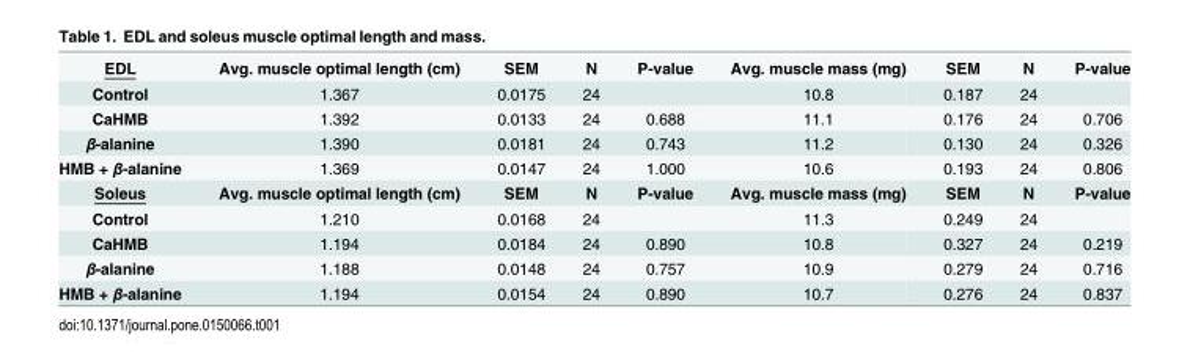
<table><tbody><tr><td>EDL</td><td>Avg. muscle optimal length (cm)</td><td>SEM</td><td>N</td><td>P-value</td><td>Avg. muscle mass (mg)</td><td>SEM</td><td>N</td><td>P-value</td></tr><tr><td>Control</td><td>1.367</td><td>0.0175</td><td>24</td><td></td><td>10.8</td><td>0.187</td><td>24</td><td></td></tr><tr><td>CaHMB</td><td>1.392</td><td>0.0133</td><td>24</td><td>0.688</td><td>11.1</td><td>0.176</td><td>24</td><td>0.706</td></tr><tr><td>β-alanine</td><td>1.390</td><td>0.0181</td><td>24</td><td>0.743</td><td>11.2</td><td>0.130</td><td>24</td><td>0.326</td></tr><tr><td>HMB + β-alanine</td><td>1.369</td><td>0.0147</td><td>24</td><td>1.000</td><td>10.6</td><td>0.193</td><td>24</td><td>0.806</td></tr><tr><td>Soleus</td><td>Avg. muscle optimal length (cm)</td><td>SEM</td><td>N</td><td>P-value</td><td>Avg. muscle mass (mg)</td><td>SEM</td><td>N</td><td>P-value</td></tr><tr><td>Control</td><td>1.210</td><td>0.0168</td><td>24</td><td></td><td>11.3</td><td>0.249</td><td>24</td><td></td></tr><tr><td>CaHMB</td><td>1.194</td><td>0.0184</td><td>24</td><td>0.890</td><td>10.8</td><td>0.327</td><td>24</td><td>0.219</td></tr><tr><td>β-alanine</td><td>1.188</td><td>0.0148</td><td>24</td><td>0.757</td><td>10.9</td><td>0.279</td><td>24</td><td>0.716</td></tr><tr><td>HMB + β-alanine</td><td>1.194</td><td>0.0154</td><td>24</td><td>0.890</td><td>10.7</td><td>0.276</td><td>24</td><td>0.837</td></tr></tbody></table>